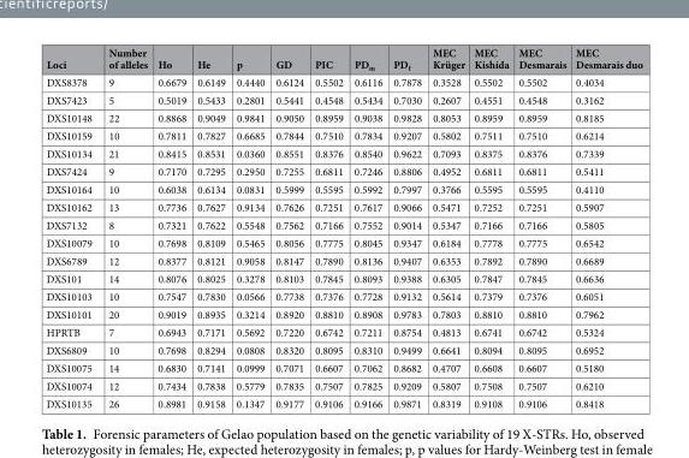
<table><thead><tr><td>Loci</td><td>Number of alleles</td><td>Ho</td><td>He</td><td>p</td><td>GD</td><td>PIC</td><td>PD<sub>m</sub></td><td>PD<sub>f</sub></td><td>MEC Krüger</td><td>MEC Kishida</td><td>MEC Desmarais</td><td>MEC Desmarais duo</td></tr></thead><tbody><tr><td>DXS8378</td><td>9</td><td>0.6679</td><td>0.6149</td><td>0.4440</td><td>0.6124</td><td>0.5502</td><td>0.6116</td><td>0.7878</td><td>0.3528</td><td>0.5502</td><td>0.5502</td><td>0.4034</td></tr><tr><td>DXS7423</td><td>5</td><td>0.5019</td><td>0.5433</td><td>0.2801</td><td>0.5441</td><td>0.4548</td><td>0.5434</td><td>0.7030</td><td>0.2607</td><td>0.4551</td><td>0.4548</td><td>0.3162</td></tr><tr><td>DXS10148</td><td>22</td><td>0.8868</td><td>0.9049</td><td>0.9841</td><td>0.9050</td><td>0.8959</td><td>0.9038</td><td>0.9828</td><td>0.8053</td><td>0.8959</td><td>0.8959</td><td>0.8185</td></tr><tr><td>DXS10159</td><td>10</td><td>0.7811</td><td>0.7827</td><td>0.6685</td><td>0.7844</td><td>0.7510</td><td>0.7834</td><td>0.9207</td><td>0.5802</td><td>0.7511</td><td>0.7510</td><td>0.6214</td></tr><tr><td>DXS10134</td><td>21</td><td>0.8415</td><td>0.8531</td><td>0.0360</td><td>0.8551</td><td>0.8376</td><td>0.8540</td><td>0.9622</td><td>0.7093</td><td>0.8375</td><td>0.8376</td><td>0.7339</td></tr><tr><td>DXS7424</td><td>9</td><td>0.7170</td><td>0.7295</td><td>0.2950</td><td>0.7255</td><td>0.6811</td><td>0.7246</td><td>0.8806</td><td>0.4952</td><td>0.6811</td><td>0.6811</td><td>0.5411</td></tr><tr><td>DXS10164</td><td>10</td><td>0.6038</td><td>0.6134</td><td>0.0831</td><td>0.5999</td><td>0.5595</td><td>0.5992</td><td>0.7997</td><td>0.3766</td><td>0.5595</td><td>0.5595</td><td>0.4110</td></tr><tr><td>DXS10162</td><td>13</td><td>0.7736</td><td>0.7627</td><td>0.9134</td><td>0.7626</td><td>0.7251</td><td>0.7617</td><td>0.9066</td><td>0.5471</td><td>0.7252</td><td>0.7251</td><td>0.5907</td></tr><tr><td>DXS7132</td><td>8</td><td>0.7321</td><td>0.7622</td><td>0.5548</td><td>0.7562</td><td>0.7166</td><td>0.7552</td><td>0.9014</td><td>0.5347</td><td>0.7166</td><td>0.7166</td><td>0.5805</td></tr><tr><td>DXS10079</td><td>10</td><td>0.7698</td><td>0.8109</td><td>0.5465</td><td>0.8056</td><td>0.7775</td><td>0.8045</td><td>0.9347</td><td>0.6184</td><td>0.7778</td><td>0.7775</td><td>0.6542</td></tr><tr><td>DXS6789</td><td>12</td><td>0.8377</td><td>0.8121</td><td>0.9058</td><td>0.8147</td><td>0.7890</td><td>0.8136</td><td>0.9407</td><td>0.6353</td><td>0.7892</td><td>0.7890</td><td>0.6689</td></tr><tr><td>DXS101</td><td>14</td><td>0.8076</td><td>0.8025</td><td>0.3278</td><td>0.8103</td><td>0.7845</td><td>0.8093</td><td>0.9388</td><td>0.6305</td><td>0.7847</td><td>0.7845</td><td>0.6636</td></tr><tr><td>DXS10103</td><td>10</td><td>0.7547</td><td>0.7830</td><td>0.0566</td><td>0.7738</td><td>0.7376</td><td>0.7728</td><td>0.9132</td><td>0.5614</td><td>0.7379</td><td>0.7376</td><td>0.6051</td></tr><tr><td>DXS10101</td><td>20</td><td>0.9019</td><td>0.8935</td><td>0.3214</td><td>0.8920</td><td>0.8810</td><td>0.8908</td><td>0.9783</td><td>0.7803</td><td>0.8810</td><td>0.8810</td><td>0.7962</td></tr><tr><td>HPRTB</td><td>7</td><td>0.6943</td><td>0.7171</td><td>0.5692</td><td>0.7220</td><td>0.6742</td><td>0.7211</td><td>0.8754</td><td>0.4813</td><td>0.6741</td><td>0.6742</td><td>0.5324</td></tr><tr><td>DXS6809</td><td>10</td><td>0.7698</td><td>0.8294</td><td>0.0808</td><td>0.8320</td><td>0.8095</td><td>0.8310</td><td>0.9499</td><td>0.6641</td><td>0.8094</td><td>0.8095</td><td>0.6952</td></tr><tr><td>DXS10075</td><td>14</td><td>0.6830</td><td>0.7141</td><td>0.0999</td><td>0.7071</td><td>0.6607</td><td>0.7062</td><td>0.8682</td><td>0.4707</td><td>0.6608</td><td>0.6607</td><td>0.5180</td></tr><tr><td>DXS10074</td><td>12</td><td>0.7434</td><td>0.7838</td><td>0.5779</td><td>0.7835</td><td>0.7507</td><td>0.7825</td><td>0.9209</td><td>0.5807</td><td>0.7508</td><td>0.7507</td><td>0.6210</td></tr><tr><td>DXS10135</td><td>26</td><td>0.8981</td><td>0.9158</td><td>0.1347</td><td>0.9177</td><td>0.9106</td><td>0.9166</td><td>0.9871</td><td>0.8319</td><td>0.9108</td><td>0.9106</td><td>0.8418</td></tr></tbody></table>